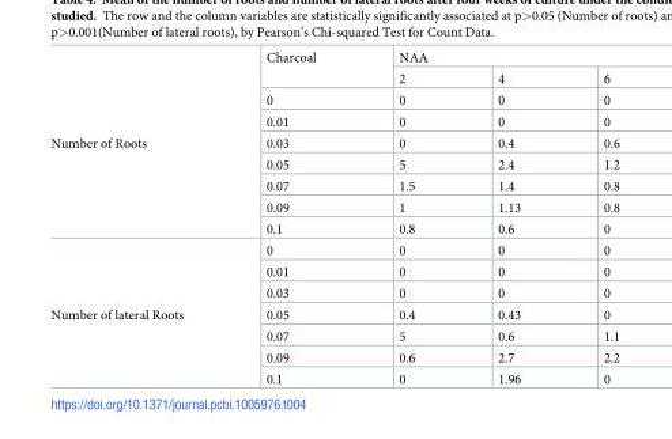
<table><tbody><tr><td rowspan="9">Number of Roots</td><td rowspan="2">Charcoal</td><td colspan="3">NAA</td></tr><tr><td>2</td><td>4</td><td>6</td></tr><tr><td>0</td><td>0</td><td>0</td><td>0</td></tr><tr><td>0.01</td><td>0</td><td>0</td><td>0</td></tr><tr><td>0.03</td><td>0</td><td>0.4</td><td>0.6</td></tr><tr><td>0.05</td><td>5</td><td>2.4</td><td>1.2</td></tr><tr><td>0.07</td><td>1.5</td><td>1.4</td><td>0.8</td></tr><tr><td>0.09</td><td>1</td><td>1.13</td><td>0.8</td></tr><tr><td>0.1</td><td>0.8</td><td>0.6</td><td>0</td></tr><tr><td rowspan="7">Number of lateral Roots</td><td>0</td><td>0</td><td>0</td><td>0</td></tr><tr><td>0.01</td><td>0</td><td>0</td><td>0</td></tr><tr><td>0.03</td><td>0</td><td>0</td><td>0</td></tr><tr><td>0.05</td><td>0.4</td><td>0.43</td><td>0</td></tr><tr><td>0.07</td><td>5</td><td>0.6</td><td>1.1</td></tr><tr><td>0.09</td><td>0.6</td><td>2.7</td><td>2.2</td></tr><tr><td>0.1</td><td>0</td><td>1.96</td><td>0</td></tr></tbody></table>